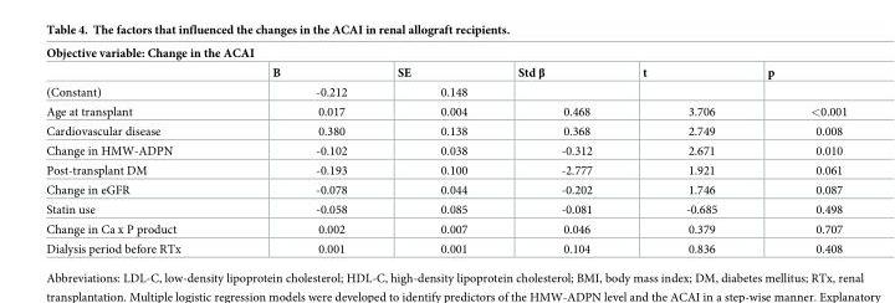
<table><thead><tr><td colspan="6">Objective variable: Change in the ACAI</td></tr><tr><td></td><td>Β</td><td>SE</td><td>Std β</td><td>t</td><td>p</td></tr></thead><tbody><tr><td>(Constant)</td><td>-0.212</td><td>0.148</td><td></td><td></td><td></td></tr><tr><td>Age at transplant</td><td>0.017</td><td>0.004</td><td>0.468</td><td>3.706</td><td>&lt;0.001</td></tr><tr><td>Cardiovascular disease</td><td>0.380</td><td>0.138</td><td>0.368</td><td>2.749</td><td>0.008</td></tr><tr><td>Change in HMW-ADPN</td><td>-0.102</td><td>0.038</td><td>-0.312</td><td>2.671</td><td>0.010</td></tr><tr><td>Post-transplant DM</td><td>-0.193</td><td>0.100</td><td>-2.777</td><td>1.921</td><td>0.061</td></tr><tr><td>Change in eGFR</td><td>-0.078</td><td>0.044</td><td>-0.202</td><td>1.746</td><td>0.087</td></tr><tr><td>Statin use</td><td>-0.058</td><td>0.085</td><td>-0.081</td><td>-0.685</td><td>0.498</td></tr><tr><td>Change in Ca x P product</td><td>0.002</td><td>0.007</td><td>0.046</td><td>0.379</td><td>0.707</td></tr><tr><td>Dialysis period before RTx</td><td>0.001</td><td>0.001</td><td>0.104</td><td>0.836</td><td>0.408</td></tr></tbody></table>